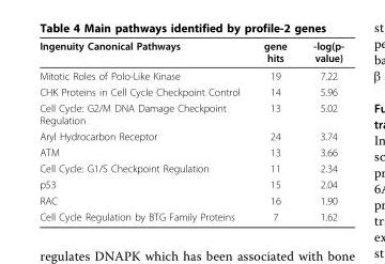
<table><thead><tr><td>Ingenuity Canonical Pathways</td><td>gene hits</td><td>-log(p- value)</td></tr></thead><tbody><tr><td>Mitotic Roles of Polo-Like Kinase</td><td>19</td><td>7.22</td></tr><tr><td>CHK Proteins in Cell Cycle Checkpoint Control</td><td>14</td><td>5.96</td></tr><tr><td>Cell Cycle: G2/M DNA Damage Checkpoint Regulation</td><td>13</td><td>5.02</td></tr><tr><td>Aryl Hydrocarbon Receptor</td><td>24</td><td>3.74</td></tr><tr><td>ATM</td><td>13</td><td>3.66</td></tr><tr><td>Cell Cycle: G1/S Checkpoint Regulation</td><td>11</td><td>2.34</td></tr><tr><td>p53</td><td>15</td><td>2.04</td></tr><tr><td>RAC</td><td>16</td><td>1.90</td></tr><tr><td>Cell Cycle Regulation by BTG Family Proteins</td><td>7</td><td>1.62</td></tr></tbody></table>